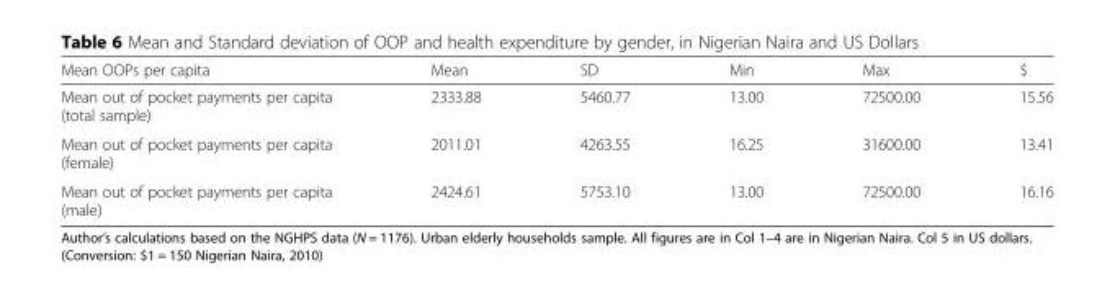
<table><thead><tr><td>Mean OOPs per capita</td><td>Mean</td><td>SD</td><td>Min</td><td>Max</td><td>$</td></tr></thead><tbody><tr><td>Mean out of pocket payments per capita (total sample)</td><td>2333.88</td><td>5460.77</td><td>13.00</td><td>72500.00</td><td>15.56</td></tr><tr><td>Mean out of pocket payments per capita (female)</td><td>2011.01</td><td>4263.55</td><td>16.25</td><td>31600.00</td><td>13.41</td></tr><tr><td>Mean out of pocket payments per capita (male)</td><td>2424.61</td><td>5753.10</td><td>13.00</td><td>72500.00</td><td>16.16</td></tr></tbody></table>